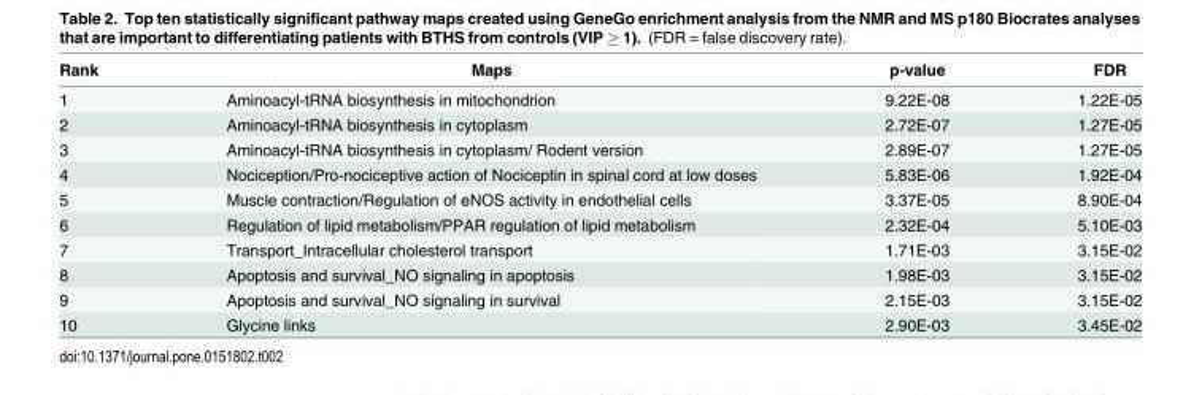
<table><thead><tr><td>Rank</td><td>Maps</td><td>p-value</td><td>FDR</td></tr></thead><tbody><tr><td>1</td><td>Aminoacyl-tRNA biosynthesis in mitochondrion</td><td>9.22E-08</td><td>1.22E-05</td></tr><tr><td>2</td><td>Aminoacyl-tRNA biosynthesis in cytoplasm</td><td>2.72E-07</td><td>1.27E-05</td></tr><tr><td>3</td><td>Aminoacyl-tRNA biosynthesis in cytoplasm/ Rodent version</td><td>2.89E-07</td><td>1.27E-05</td></tr><tr><td>4</td><td>Nociception/Pro-nociceptive action of Nociceptin in spinal cord at low doses</td><td>5.83E-06</td><td>1.92E-04</td></tr><tr><td>5</td><td>Muscle contraction/Regulation of eNOS activity in endothelial cells</td><td>3.37E-05</td><td>8.90E-04</td></tr><tr><td>6</td><td>Regulation of lipid metabolism/PPAR regulation of lipid metabolism</td><td>2.32E-04</td><td>5.10E-03</td></tr><tr><td>7</td><td>Transport_Intracellular cholesterol transport</td><td>1.71E-03</td><td>3.15E-02</td></tr><tr><td>8</td><td>Apoptosis and survival_NO signaling in apoptosis</td><td>1.98E-03</td><td>3.15E-02</td></tr><tr><td>9</td><td>Apoptosis and survival_NO signaling in survival</td><td>2.15E-03</td><td>3.15E-02</td></tr><tr><td>10</td><td>Glycine links</td><td>2.90E-03</td><td>3.45E-02</td></tr></tbody></table>